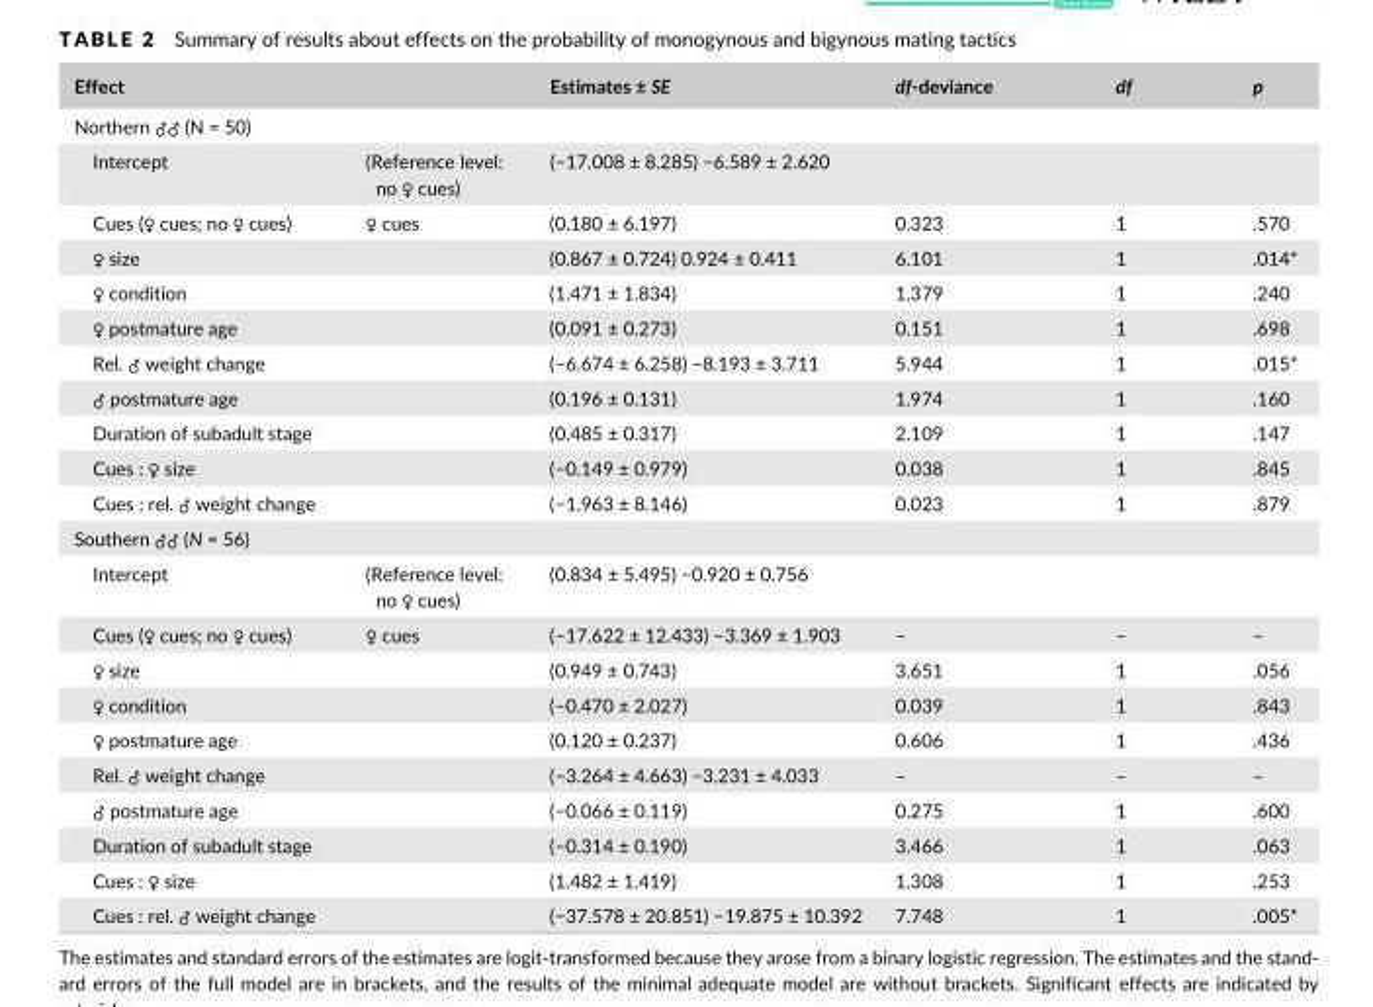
<table><thead><tr><td>Effect</td><td></td><td>Estimates ± SE</td><td>df- deviance</td><td>df</td><td>p</td></tr></thead><tbody><tr><td colspan="6">Northern ♂♂ (N = 50)</td></tr><tr><td>Intercept</td><td>(Reference level: no ♀ cues)</td><td>(−17.008 ± 8.285) −6.589 ± 2.620</td><td></td><td></td><td></td></tr><tr><td>Cues (♀ cues; no ♀ cues)</td><td>♀ cues</td><td>(0.180 ± 6.197)</td><td>0.323</td><td>1</td><td>.570</td></tr><tr><td>♀ size</td><td></td><td>(0.867 ± 0.724) 0.924 ± 0.411</td><td>6.101</td><td>1</td><td>.014*</td></tr><tr><td>♀ condition</td><td></td><td>(1.471 ± 1.834)</td><td>1.379</td><td>1</td><td>.240</td></tr><tr><td>♀ postmature age</td><td></td><td>(0.091 ± 0.273)</td><td>0.151</td><td>1</td><td>.698</td></tr><tr><td>Rel. ♂ weight change</td><td></td><td>(−6.674 ± 6.258) −8.193 ± 3.711</td><td>5.944</td><td>1</td><td>.015*</td></tr><tr><td>♂ postmature age</td><td></td><td>(0.196 ± 0.131)</td><td>1.974</td><td>1</td><td>.160</td></tr><tr><td>Duration of subadult stage</td><td></td><td>(0.485 ± 0.317)</td><td>2.109</td><td>1</td><td>.147</td></tr><tr><td>Cues : ♀ size</td><td></td><td>(−0.149 ± 0.979)</td><td>0.038</td><td>1</td><td>.845</td></tr><tr><td>Cues : rel. ♂ weight change</td><td></td><td>(−1.963 ± 8.146)</td><td>0.023</td><td>1</td><td>.879</td></tr><tr><td colspan="6">Southern ♂♂ (N = 56)</td></tr><tr><td>Intercept</td><td>(Reference level: no ♀ cues)</td><td>(0.834 ± 5.495) −0.920 ± 0.756</td><td></td><td></td><td></td></tr><tr><td>Cues (♀ cues; no ♀ cues)</td><td>♀ cues</td><td>(−17.622 ± 12.433) −3.369 ± 1.903</td><td>–</td><td>–</td><td>–</td></tr><tr><td>♀ size</td><td></td><td>(0.949 ± 0.743)</td><td>3.651</td><td>1</td><td>.056</td></tr><tr><td>♀ condition</td><td></td><td>(−0.470 ± 2.027)</td><td>0.039</td><td>1</td><td>.843</td></tr><tr><td>♀ postmature age</td><td></td><td>(0.120 ± 0.237)</td><td>0.606</td><td>1</td><td>.436</td></tr><tr><td>Rel. ♂ weight change</td><td></td><td>(−3.264 ± 4.663) −3.231 ± 4.033</td><td>–</td><td>–</td><td>–</td></tr><tr><td>♂ postmature age</td><td></td><td>(−0.066 ± 0.119)</td><td>0.275</td><td>1</td><td>.600</td></tr><tr><td>Duration of subadult stage</td><td></td><td>(−0.314 ± 0.190)</td><td>3.466</td><td>1</td><td>.063</td></tr><tr><td>Cues : ♀ size</td><td></td><td>(1.482 ± 1.419)</td><td>1.308</td><td>1</td><td>.253</td></tr><tr><td>Cues : rel. ♂ weight change</td><td></td><td>(−37.578 ± 20.851) −19.875 ± 10.392</td><td>7.748</td><td>1</td><td>.005*</td></tr></tbody></table>